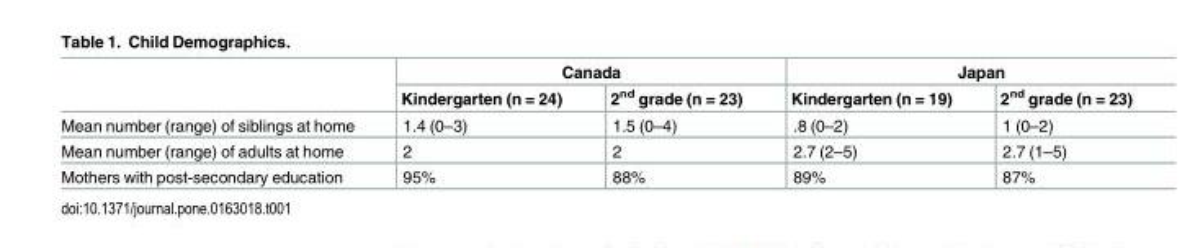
<table><thead><tr><td rowspan="2"></td><td colspan="2">Canada</td><td colspan="2">Japan</td></tr><tr><td>Kindergarten (n = 24)</td><td>2<sup>nd</sup> grade (n = 23)</td><td>Kindergarten (n = 19)</td><td>2<sup>nd</sup> grade (n = 23)</td></tr></thead><tbody><tr><td>Mean number (range) of siblings at home</td><td>1.4 (0–3)</td><td>1.5 (0–4)</td><td>.8 (0–2)</td><td>1 (0–2)</td></tr><tr><td>Mean number (range) of adults at home</td><td>2</td><td>2</td><td>2.7 (2–5)</td><td>2.7 (1–5)</td></tr><tr><td>Mothers with post-secondary education</td><td>95%</td><td>88%</td><td>89%</td><td>87%</td></tr></tbody></table>